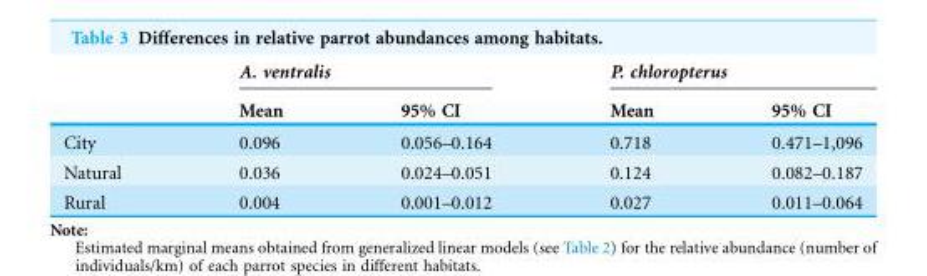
<table><thead><tr><td rowspan="2"></td><td colspan="2">A. ventralis</td><td colspan="2">P. chloropterus</td></tr><tr><td>Mean</td><td>95% CI</td><td>Mean</td><td>95% CI</td></tr></thead><tbody><tr><td>City</td><td>0.096</td><td>0.056–0.164</td><td>0.718</td><td>0.471–1,096</td></tr><tr><td>Natural</td><td>0.036</td><td>0.024–0.051</td><td>0.124</td><td>0.082–0.187</td></tr><tr><td>Rural</td><td>0.004</td><td>0.001–0.012</td><td>0.027</td><td>0.011–0.064</td></tr></tbody></table>